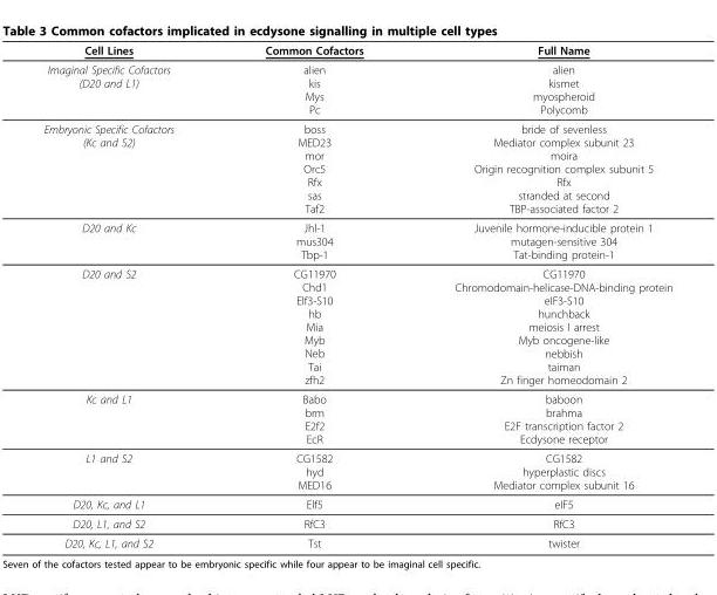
<table><thead><tr><td>Cell Lines</td><td>Common Cofactors</td><td>Full Name</td></tr></thead><tbody><tr><td>Imaginal Specific Cofactors (D20 and L1)</td><td>alien kis Mys Pc</td><td>alien kismet myospheroid Polycomb</td></tr><tr><td>Embryonic Specific Cofactors (Kc and S2)</td><td>boss MED23 mor Orc5 Rfx sas Taf2</td><td>bride of sevenless Mediator complex subunit 23 moira Origin recognition complex subunit 5 Rfx stranded at second TBP-associated factor 2</td></tr><tr><td>D20 and Kc</td><td>Jhl-1 mus304 Tbp-1</td><td>Juvenile hormone-inducible protein 1 mutagen-sensitive 304 Tat-binding protein-1</td></tr><tr><td>D20 and S2</td><td>CG11970 Chd1 Elf3-S10 hb Mia Myb Neb Tai zfh2</td><td>CG11970 Chromodomain-helicase-DNA-binding protein eIF3-S10 hunchback meiosis I arrest Myb oncogene-like nebbish taiman Zn finger homeodomain 2</td></tr><tr><td>Kc and L1</td><td>Babo brm E2f2 EcR</td><td>baboon brahma E2F transcription factor 2 Ecdysone receptor</td></tr><tr><td>L1 and S2</td><td>CG1582 hyd MED16</td><td>CG1582 hyperplastic discs Mediator complex subunit 16</td></tr><tr><td>D20, Kc, and L1</td><td>Elf5</td><td>eIF5</td></tr><tr><td>D20, L1, and S2</td><td>RfC3</td><td>RfC3</td></tr><tr><td>D20, Kc, L1, and S2</td><td>Tst</td><td>twister</td></tr></tbody></table>